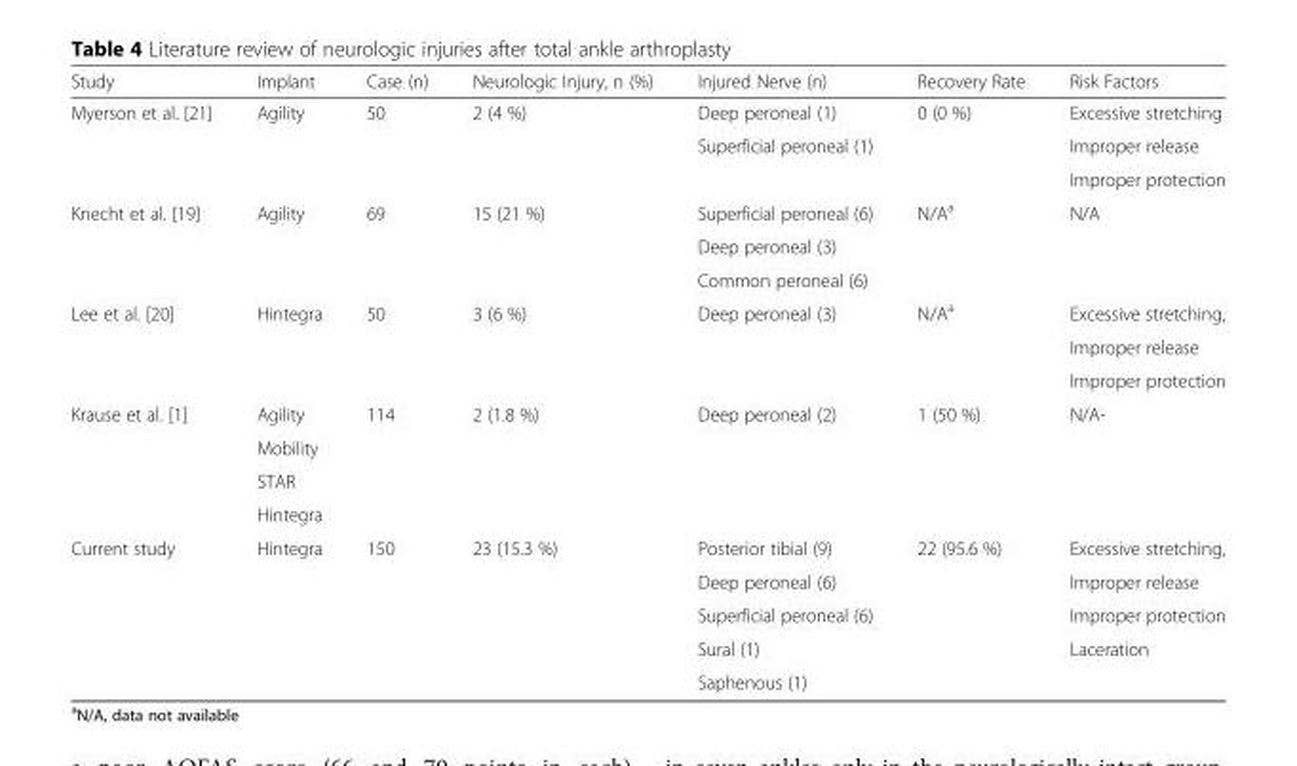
<table><thead><tr><td>Study</td><td>Implant</td><td>Case (n)</td><td>Neurologic Injury, n (%)</td><td>Injured Nerve (n)</td><td>Recovery Rate</td><td>Risk Factors</td></tr></thead><tbody><tr><td rowspan="3">Myerson et al. [21]</td><td>Agility</td><td>50</td><td>2 (4 %)</td><td>Deep peroneal (1)</td><td>0 (0 %)</td><td>Excessive stretching</td></tr><tr><td rowspan="2"></td><td rowspan="2"></td><td rowspan="2"></td><td rowspan="2">Superficial peroneal (1)</td><td rowspan="2"></td><td>Improper release</td></tr><tr><td>Improper protection</td></tr><tr><td rowspan="3">Knecht et al. [19]</td><td rowspan="3">Agility</td><td rowspan="3">69</td><td rowspan="3">15 (21 %)</td><td>Superficial peroneal (6)</td><td rowspan="3">N/A<sup>a</sup></td><td rowspan="3">N/A</td></tr><tr><td>Deep peroneal (3)</td></tr><tr><td>Common peroneal (6)</td></tr><tr><td rowspan="3">Lee et al. [20]</td><td rowspan="3">Hintegra</td><td rowspan="3">50</td><td rowspan="3">3 (6 %)</td><td rowspan="3">Deep peroneal (3)</td><td rowspan="3">N/A<sup>a</sup></td><td>Excessive stretching,</td></tr><tr><td>Improper release</td></tr><tr><td>Improper protection</td></tr><tr><td rowspan="4">Krause et al. [1]</td><td>Agility</td><td rowspan="4">114</td><td rowspan="4">2 (1.8 %)</td><td rowspan="4">Deep peroneal (2)</td><td rowspan="4">1 (50 %)</td><td rowspan="4">N/A-</td></tr><tr><td>Mobility</td></tr><tr><td>STAR</td></tr><tr><td>Hintegra</td></tr><tr><td rowspan="5">Current study</td><td rowspan="5">Hintegra</td><td rowspan="5">150</td><td rowspan="5">23 (15.3 %)</td><td>Posterior tibial (9)</td><td rowspan="5">22 (95.6 %)</td><td>Excessive stretching,</td></tr><tr><td>Deep peroneal (6)</td><td>Improper release</td></tr><tr><td>Superficial peroneal (6)</td><td>Improper protection</td></tr><tr><td>Sural (1)</td><td rowspan="2">Laceration</td></tr><tr><td>Saphenous (1)</td></tr></tbody></table>